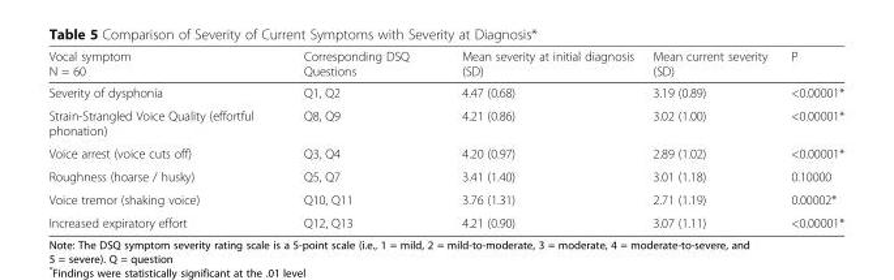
<table><thead><tr><td>Vocal symptom N = 60</td><td>Corresponding DSQ Questions</td><td>Mean severity at initial diagnosis (SD)</td><td>Mean current severity (SD)</td><td>P</td></tr></thead><tbody><tr><td>Severity of dysphonia</td><td>Q1, Q2</td><td>4.47 (0.68)</td><td>3.19 (0.89)</td><td>&lt;0.00001*</td></tr><tr><td>Strain-Strangled Voice Quality (effortful phonation)</td><td>Q8, Q9</td><td>4.21 (0.86)</td><td>3.02 (1.00)</td><td>&lt;0.00001*</td></tr><tr><td>Voice arrest (voice cuts off)</td><td>Q3, Q4</td><td>4.20 (0.97)</td><td>2.89 (1.02)</td><td>&lt;0.00001*</td></tr><tr><td>Roughness (hoarse / husky)</td><td>Q5, Q7</td><td>3.41 (1.40)</td><td>3.01 (1.18)</td><td>0.10000</td></tr><tr><td>Voice tremor (shaking voice)</td><td>Q10, Q11</td><td>3.76 (1.31)</td><td>2.71 (1.19)</td><td>0.00002*</td></tr><tr><td>Increased expiratory effort</td><td>Q12, Q13</td><td>4.21 (0.90)</td><td>3.07 (1.11)</td><td>&lt;0.00001*</td></tr></tbody></table>